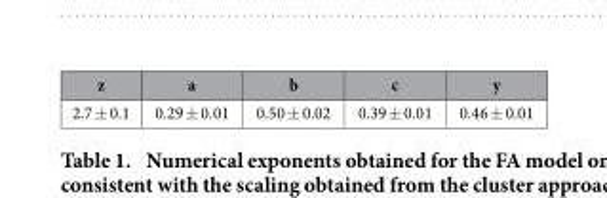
<table><thead><tr><td>z</td><td>a</td><td>b</td><td>c</td><td>y</td></tr></thead><tbody><tr><td>2.7 ± 0.1</td><td>0.29 ± 0.01</td><td>0.50 ± 0.02</td><td>0.39 ± 0.01</td><td>0.46 ± 0.01</td></tr></tbody></table>